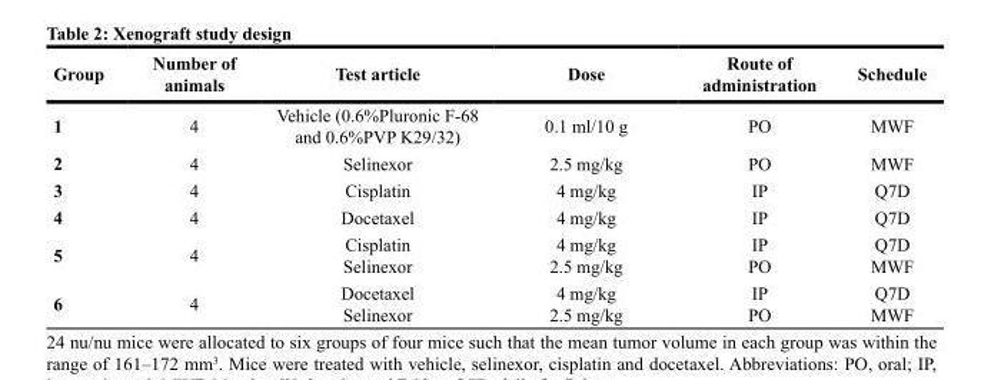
<table><thead><tr><td>Group</td><td>Number of animals</td><td>Test article</td><td>Dose</td><td>Route of administration</td><td>Schedule</td></tr></thead><tbody><tr><td>1</td><td>4</td><td>Vehicle (0.6%Pluronic F-68 and 0.6%PVP K29/32)</td><td>0.1 ml/10 g</td><td>PO</td><td>MWF</td></tr><tr><td>2</td><td>4</td><td>Selinexor</td><td>2.5 mg/kg</td><td>PO</td><td>MWF</td></tr><tr><td>3</td><td>4</td><td>Cisplatin</td><td>4 mg/kg</td><td>IP</td><td>Q7D</td></tr><tr><td>4</td><td>4</td><td>Docetaxel</td><td>4 mg/kg</td><td>IP</td><td>Q7D</td></tr><tr><td>5</td><td>4</td><td>Cisplatin Selinexor</td><td>4 mg/kg 2.5 mg/kg</td><td>IP PO</td><td>Q7D MWF</td></tr><tr><td>6</td><td>4</td><td>Docetaxel Selinexor</td><td>4 mg/kg 2.5 mg/kg</td><td>IP PO</td><td>Q7D MWF</td></tr></tbody></table>